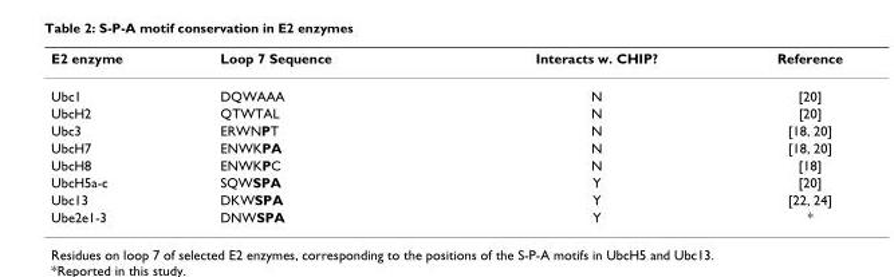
<table><thead><tr><td>E2 enzyme</td><td>Loop 7 Sequence</td><td>Interacts w. CHIP?</td><td>Reference</td></tr></thead><tbody><tr><td>Ubc1</td><td>DQWAAA</td><td>N</td><td>[20]</td></tr><tr><td>UbcH2</td><td>QTWTAL</td><td>N</td><td>[20]</td></tr><tr><td>Ubc3</td><td>ERWNPT</td><td>N</td><td>[18, 20]</td></tr><tr><td>UbcH7</td><td>ENWKPA</td><td>N</td><td>[18, 20]</td></tr><tr><td>UbcH8</td><td>ENWKPC</td><td>N</td><td>[18]</td></tr><tr><td>UbcH5a-c</td><td>SQWSPA</td><td>Y</td><td>[20]</td></tr><tr><td>Ubc13</td><td>DKWSPA</td><td>Y</td><td>[22, 24]</td></tr><tr><td>Ube2e1-3</td><td>DNWSPA</td><td>Y</td><td>*</td></tr></tbody></table>